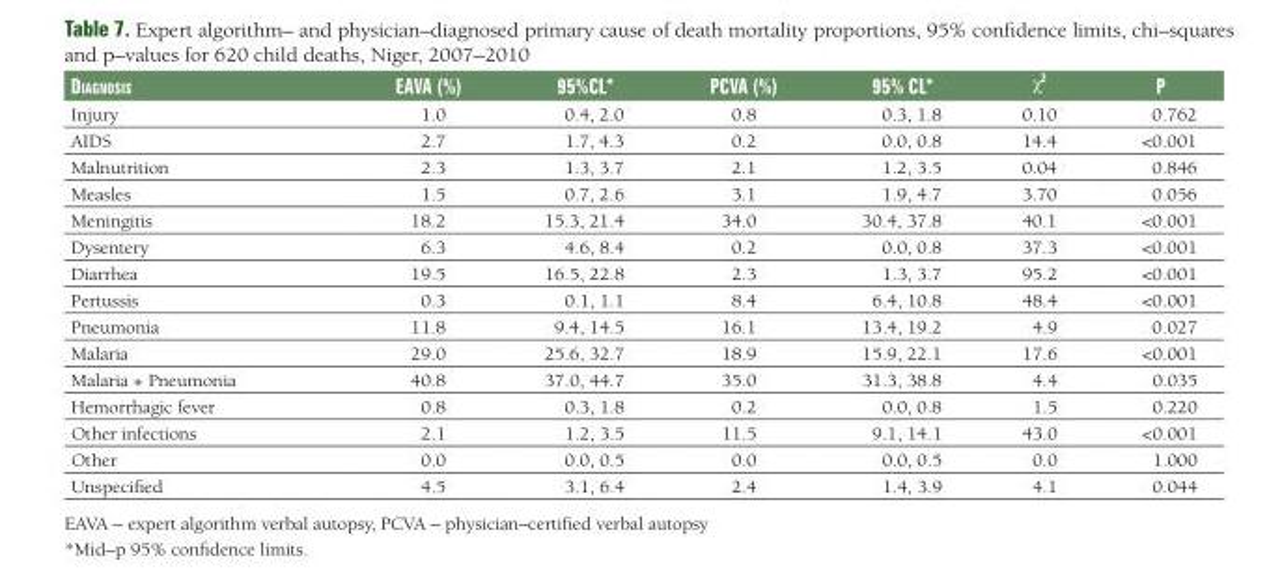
<table><thead><tr><td>diAgNoSiS</td><td>eAVA (%)</td><td>95%cl*</td><td>pcVA (%)</td><td>95% cl*</td><td>χ<sup>2</sup></td><td>p</td></tr></thead><tbody><tr><td>Injury</td><td>1.0</td><td>0.4, 2.0</td><td>0.8</td><td>0.3, 1.8</td><td>0.10</td><td>0.762</td></tr><tr><td>AIDS</td><td>2.7</td><td>1.7, 4.3</td><td>0.2</td><td>0.0, 0.8</td><td>14.4</td><td>&lt;0.001</td></tr><tr><td>Malnutrition</td><td>2.3</td><td>1.3, 3.7</td><td>2.1</td><td>1.2, 3.5</td><td>0.04</td><td>0.846</td></tr><tr><td>Measles</td><td>1.5</td><td>0.7, 2.6</td><td>3.1</td><td>1.9, 4.7</td><td>3.70</td><td>0.056</td></tr><tr><td>Meningitis</td><td>18.2</td><td>15.3, 21.4</td><td>34.0</td><td>30.4, 37.8</td><td>40.1</td><td>&lt;0.001</td></tr><tr><td>Dysentery</td><td>6.3</td><td>4.6, 8.4</td><td>0.2</td><td>0.0, 0.8</td><td>37.3</td><td>&lt;0.001</td></tr><tr><td>Diarrhea</td><td>19.5</td><td>16.5, 22.8</td><td>2.3</td><td>1.3, 3.7</td><td>95.2</td><td>&lt;0.001</td></tr><tr><td>Pertussis</td><td>0.3</td><td>0.1, 1.1</td><td>8.4</td><td>6.4, 10.8</td><td>48.4</td><td>&lt;0.001</td></tr><tr><td>Pneumonia</td><td>11.8</td><td>9.4, 14.5</td><td>16.1</td><td>13.4, 19.2</td><td>4.9</td><td>0.027</td></tr><tr><td>Malaria</td><td>29.0</td><td>25.6, 32.7</td><td>18.9</td><td>15.9, 22.1</td><td>17.6</td><td>&lt;0.001</td></tr><tr><td>Malaria + Pneumonia</td><td>40.8</td><td>37.0, 44.7</td><td>35.0</td><td>31.3, 38.8</td><td>4.4</td><td>0.035</td></tr><tr><td>Hemorrhagic fever</td><td>0.8</td><td>0.3, 1.8</td><td>0.2</td><td>0.0, 0.8</td><td>1.5</td><td>0.220</td></tr><tr><td>Other infections</td><td>2.1</td><td>1.2, 3.5</td><td>11.5</td><td>9.1, 14.1</td><td>43.0</td><td>&lt;0.001</td></tr><tr><td>Other</td><td>0.0</td><td>0.0, 0.5</td><td>0.0</td><td>0.0, 0.5</td><td>0.0</td><td>1.000</td></tr><tr><td>Unspecified</td><td>4.5</td><td>3.1, 6.4</td><td>2.4</td><td>1.4, 3.9</td><td>4.1</td><td>0.044</td></tr></tbody></table>